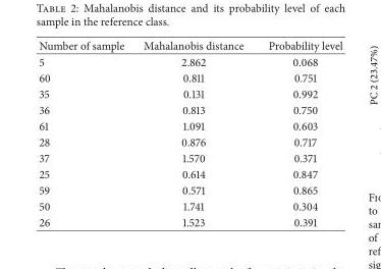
<table><thead><tr><td>Number of sample</td><td>Mahalanobis distance</td><td>Probability level</td></tr></thead><tbody><tr><td>5</td><td>2.862</td><td>0.068</td></tr><tr><td>60</td><td>0.811</td><td>0.751</td></tr><tr><td>35</td><td>0.131</td><td>0.992</td></tr><tr><td>36</td><td>0.813</td><td>0.750</td></tr><tr><td>61</td><td>1.091</td><td>0.603</td></tr><tr><td>28</td><td>0.876</td><td>0.717</td></tr><tr><td>37</td><td>1.570</td><td>0.371</td></tr><tr><td>25</td><td>0.614</td><td>0.847</td></tr><tr><td>59</td><td>0.571</td><td>0.865</td></tr><tr><td>50</td><td>1.741</td><td>0.304</td></tr><tr><td>26</td><td>1.523</td><td>0.391</td></tr></tbody></table>